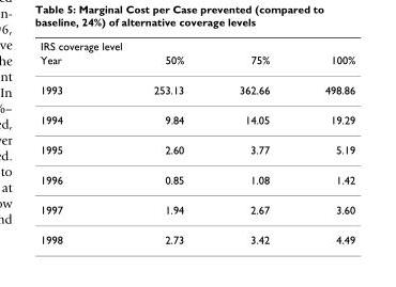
<table><thead><tr><td colspan="4">IRS coverage level</td></tr><tr><td>Year</td><td>50%</td><td>75%</td><td>100%</td></tr></thead><tbody><tr><td>1993</td><td>253.13</td><td>362.66</td><td>498.86</td></tr><tr><td>1994</td><td>9.84</td><td>14.05</td><td>19.29</td></tr><tr><td>1995</td><td>2.60</td><td>3.77</td><td>5.19</td></tr><tr><td>1996</td><td>0.85</td><td>1.08</td><td>1.42</td></tr><tr><td>1997</td><td>1.94</td><td>2.67</td><td>3.60</td></tr><tr><td>1998</td><td>2.73</td><td>3.42</td><td>4.49</td></tr></tbody></table>